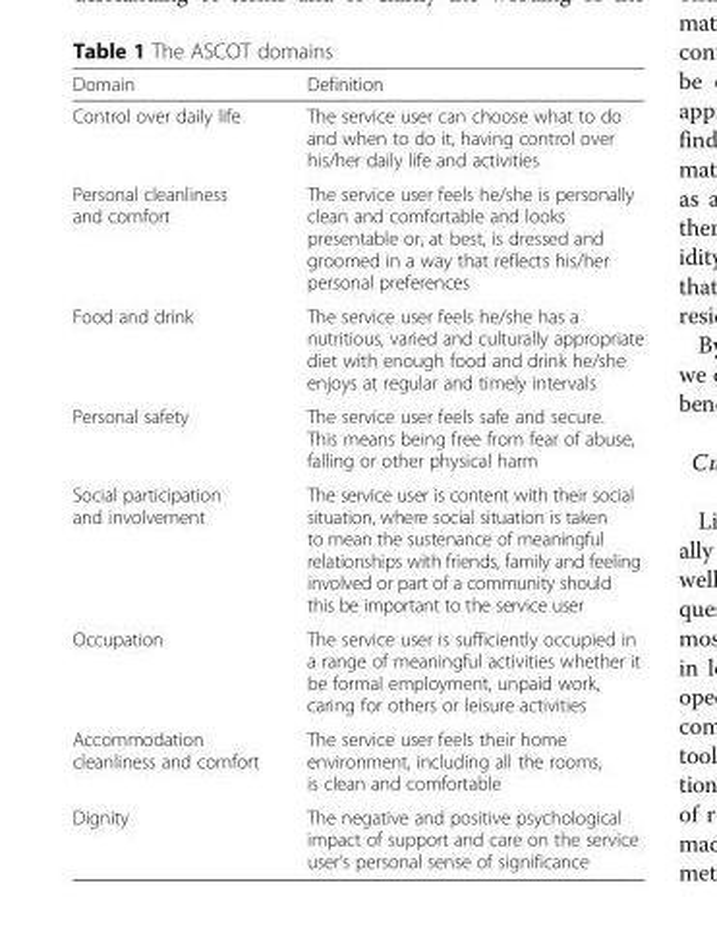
<table><thead><tr><td>Domain</td><td>Definition</td></tr></thead><tbody><tr><td>Control over daily life</td><td>The service user can choose what to do and when to do it, having control over his/her daily life and activities</td></tr><tr><td>Personal cleanliness and comfort</td><td>The service user feels he/she is personally clean and comfortable and looks presentable or, at best, is dressed and groomed in a way that reflects his/her personal preferences</td></tr><tr><td>Food and drink</td><td>The service user feels he/she has a nutritious, varied and culturally appropriate diet with enough food and drink he/she enjoys at regular and timely intervals</td></tr><tr><td>Personal safety</td><td>The service user feels safe and secure. This means being free from fear of abuse, falling or other physical harm</td></tr><tr><td>Social participation and involvement</td><td>The service user is content with their social situation, where social situation is taken to mean the sustenance of meaningful relationships with friends, family and feeling involved or part of a community should this be important to the service user</td></tr><tr><td>Occupation</td><td>The service user is sufficiently occupied in a range of meaningful activities whether it be formal employment, unpaid work, caring for others or leisure activities</td></tr><tr><td>Accommodation cleanliness and comfort</td><td>The service user feels their home environment, including all the rooms, is clean and comfortable</td></tr><tr><td>Dignity</td><td>The negative and positive psychological impact of support and care on the service user’s personal sense of significance</td></tr></tbody></table>